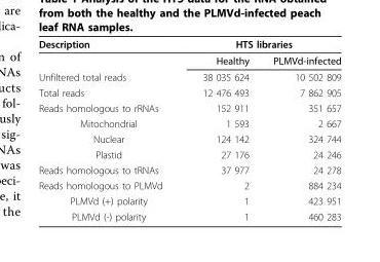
<table><thead><tr><td rowspan="2">Description</td><td colspan="2">HTS libraries</td></tr><tr><td>Healthy</td><td>PLMVd-infected</td></tr></thead><tbody><tr><td>Unfiltered total reads</td><td>38 035 624</td><td>10 502 809</td></tr><tr><td>Total reads</td><td>12 476 493</td><td>7 862 905</td></tr><tr><td>Reads homologous to rRNAs</td><td>152 911</td><td>351 657</td></tr><tr><td>Mitochondrial</td><td>1 593</td><td>2 667</td></tr><tr><td>Nuclear</td><td>124 142</td><td>324 744</td></tr><tr><td>Plastid</td><td>27 176</td><td>24 246</td></tr><tr><td>Reads homologous to tRNAs</td><td>37 977</td><td>24 278</td></tr><tr><td>Reads homologous to PLMVd</td><td>2</td><td>884 234</td></tr><tr><td>PLMVd (+) polarity</td><td>1</td><td>423 951</td></tr><tr><td>PLMVd (-) polarity</td><td>1</td><td>460 283</td></tr></tbody></table>